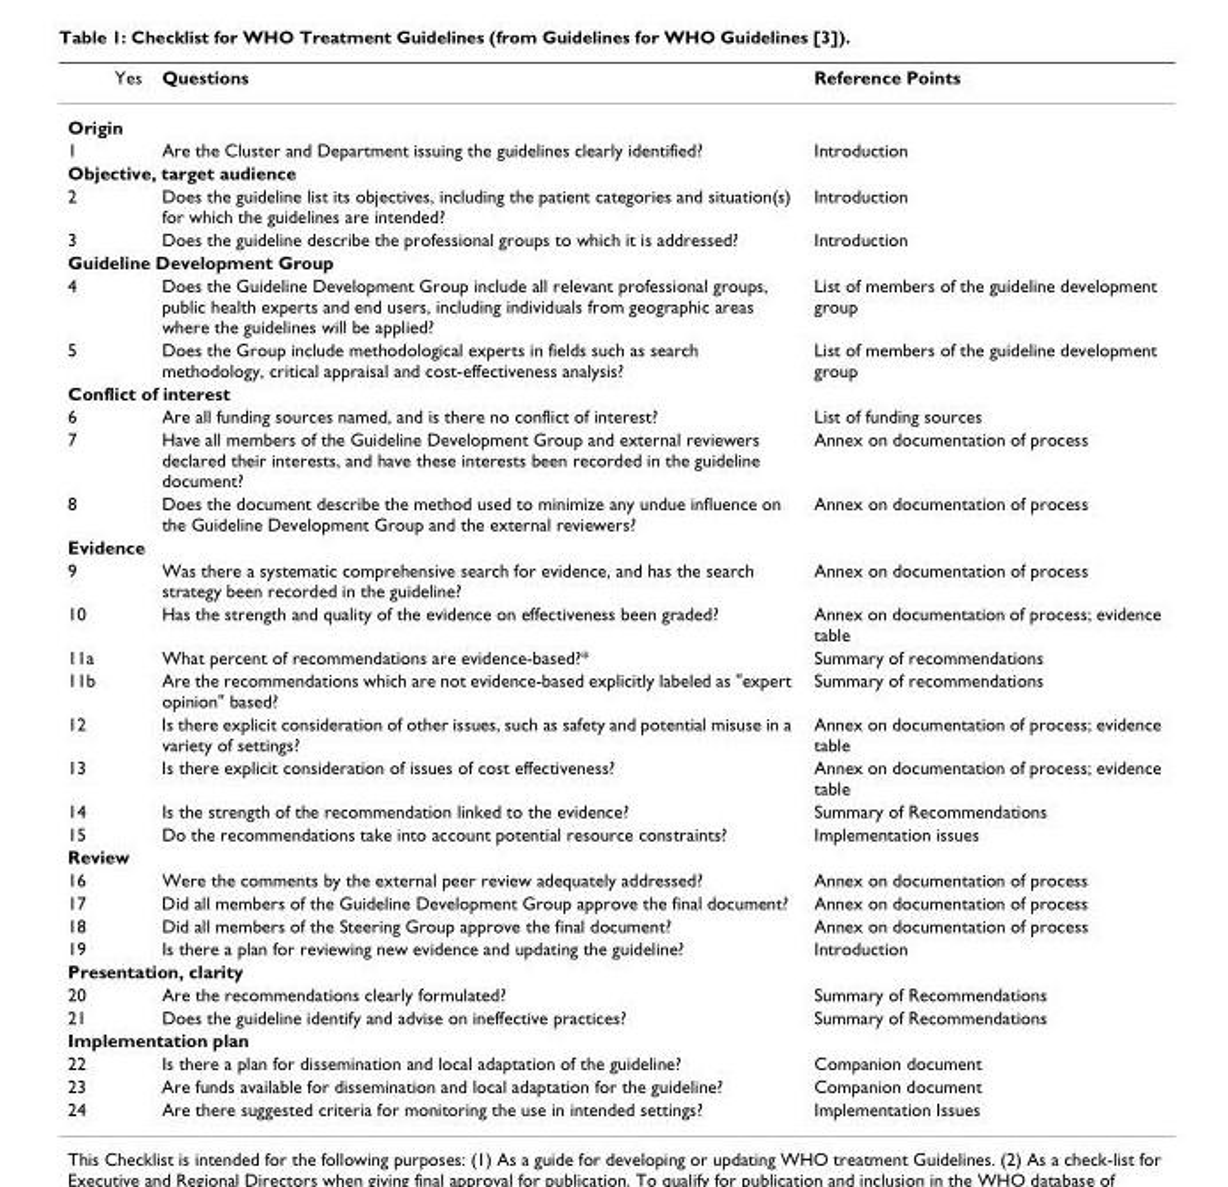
<table><thead><tr><td></td><td>Yes</td><td>Questions</td><td>Reference Points</td></tr></thead><tbody><tr><td colspan="4">Origin</td></tr><tr><td>1</td><td></td><td>Are the Cluster and Department issuing the guidelines clearly identified?</td><td>Introduction</td></tr><tr><td colspan="4">Objective, target audience</td></tr><tr><td>2</td><td></td><td>Does the guideline list its objectives, including the patient categories and situation(s) for which the guidelines are intended?</td><td>Introduction</td></tr><tr><td>3</td><td></td><td>Does the guideline describe the professional groups to which it is addressed?</td><td>Introduction</td></tr><tr><td colspan="4">Guideline Development Group</td></tr><tr><td>4</td><td></td><td>Does the Guideline Development Group include all relevant professional groups, public health experts and end users, including individuals from geographic areas where the guidelines will be applied?</td><td>List of members of the guideline development group</td></tr><tr><td>5</td><td></td><td>Does the Group include methodological experts in fields such as search methodology, critical appraisal and cost-effectiveness analysis?</td><td>List of members of the guideline development group</td></tr><tr><td colspan="4">Conflict of interest</td></tr><tr><td>6</td><td></td><td>Are all funding sources named, and is there no conflict of interest?</td><td>List of funding sources</td></tr><tr><td>7</td><td></td><td>Have all members of the Guideline Development Group and external reviewers declared their interests, and have these interests been recorded in the guideline document?</td><td>Annex on documentation of process</td></tr><tr><td>8</td><td></td><td>Does the document describe the method used to minimize any undue influence on the Guideline Development Group and the external reviewers?</td><td>Annex on documentation of process</td></tr><tr><td colspan="4">Evidence</td></tr><tr><td>9</td><td></td><td>Was there a systematic comprehensive search for evidence, and has the search strategy been recorded in the guideline?</td><td>Annex on documentation of process</td></tr><tr><td>10</td><td></td><td>Has the strength and quality of the evidence on effectiveness been graded?</td><td>Annex on documentation of process; evidence table</td></tr><tr><td>11a</td><td></td><td>What percent of recommendations are evidence-based?*</td><td>Summary of recommendations</td></tr><tr><td>11b</td><td></td><td>Are the recommendations which are not evidence-based explicitly labeled as &quot;expert opinion&quot; based?</td><td>Summary of recommendations</td></tr><tr><td>12</td><td></td><td>Is there explicit consideration of other issues, such as safety and potential misuse in a variety of settings?</td><td>Annex on documentation of process; evidence table</td></tr><tr><td>13</td><td></td><td>Is there explicit consideration of issues of cost effectiveness?</td><td>Annex on documentation of process; evidence table</td></tr><tr><td>14</td><td></td><td>Is the strength of the recommendation linked to the evidence?</td><td>Summary of Recommendations</td></tr><tr><td>15</td><td></td><td>Do the recommendations take into account potential resource constraints?</td><td>Implementation issues</td></tr><tr><td colspan="4">Review</td></tr><tr><td>16</td><td></td><td>Were the comments by the external peer review adequately addressed?</td><td>Annex on documentation of process</td></tr><tr><td>17</td><td></td><td>Did all members of the Guideline Development Group approve the final document?</td><td>Annex on documentation of process</td></tr><tr><td>18</td><td></td><td>Did all members of the Steering Group approve the final document?</td><td>Annex on documentation of process</td></tr><tr><td>19</td><td></td><td>Is there a plan for reviewing new evidence and updating the guideline?</td><td>Introduction</td></tr><tr><td colspan="4">Presentation, clarity</td></tr><tr><td>20</td><td></td><td>Are the recommendations clearly formulated?</td><td>Summary of Recommendations</td></tr><tr><td>21</td><td></td><td>Does the guideline identify and advise on ineffective practices?</td><td>Summary of Recommendations</td></tr><tr><td colspan="4">Implementation plan</td></tr><tr><td>22</td><td></td><td>Is there a plan for dissemination and local adaptation of the guideline?</td><td>Companion document</td></tr><tr><td>23</td><td></td><td>Are funds available for dissemination and local adaptation for the guideline?</td><td>Companion document</td></tr><tr><td>24</td><td></td><td>Are there suggested criteria for monitoring the use in intended settings?</td><td>Implementation Issues</td></tr></tbody></table>